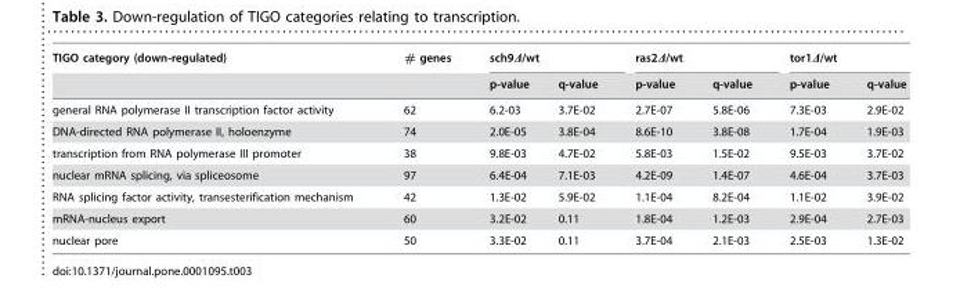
<table><thead><tr><td rowspan="2">TIGO category (down-regulated)</td><td rowspan="2"># genes</td><td colspan="2">sch9Δ/wt</td><td colspan="2">ras2Δ/wt</td><td colspan="2">tor1Δ/wt</td></tr><tr><td>p-value</td><td>q-value</td><td>p-value</td><td>q-value</td><td>p-value</td><td>q-value</td></tr></thead><tbody><tr><td>general RNA polymerase II transcription factor activity</td><td>62</td><td>6.2-03</td><td>3.7E-02</td><td>2.7E-07</td><td>5.8E-06</td><td>7.3E-03</td><td>2.9E-02</td></tr><tr><td>DNA-directed RNA polymerase II, holoenzyme</td><td>74</td><td>2.0E-05</td><td>3.8E-04</td><td>8.6E-10</td><td>3.8E-08</td><td>1.7E-04</td><td>1.9E-03</td></tr><tr><td>transcription from RNA polymerase III promoter</td><td>38</td><td>9.8E-03</td><td>4.7E-02</td><td>5.8E-03</td><td>1.5E-02</td><td>9.5E-03</td><td>3.7E-02</td></tr><tr><td>nuclear mRNA splicing, via spliceosome</td><td>97</td><td>6.4E-04</td><td>7.1E-03</td><td>4.2E-09</td><td>1.4E-07</td><td>4.6E-04</td><td>3.7E-03</td></tr><tr><td>RNA splicing factor activity, transesterification mechanism</td><td>42</td><td>1.3E-02</td><td>5.9E-02</td><td>1.1E-04</td><td>8.2E-04</td><td>1.1E-02</td><td>3.9E-02</td></tr><tr><td>mRNA-nucleus export</td><td>60</td><td>3.2E-02</td><td>0.11</td><td>1.8E-04</td><td>1.2E-03</td><td>2.9E-04</td><td>2.7E-03</td></tr><tr><td>nuclear pore</td><td>50</td><td>3.3E-02</td><td>0.11</td><td>3.7E-04</td><td>2.1E-03</td><td>2.5E-03</td><td>1.3E-02</td></tr></tbody></table>